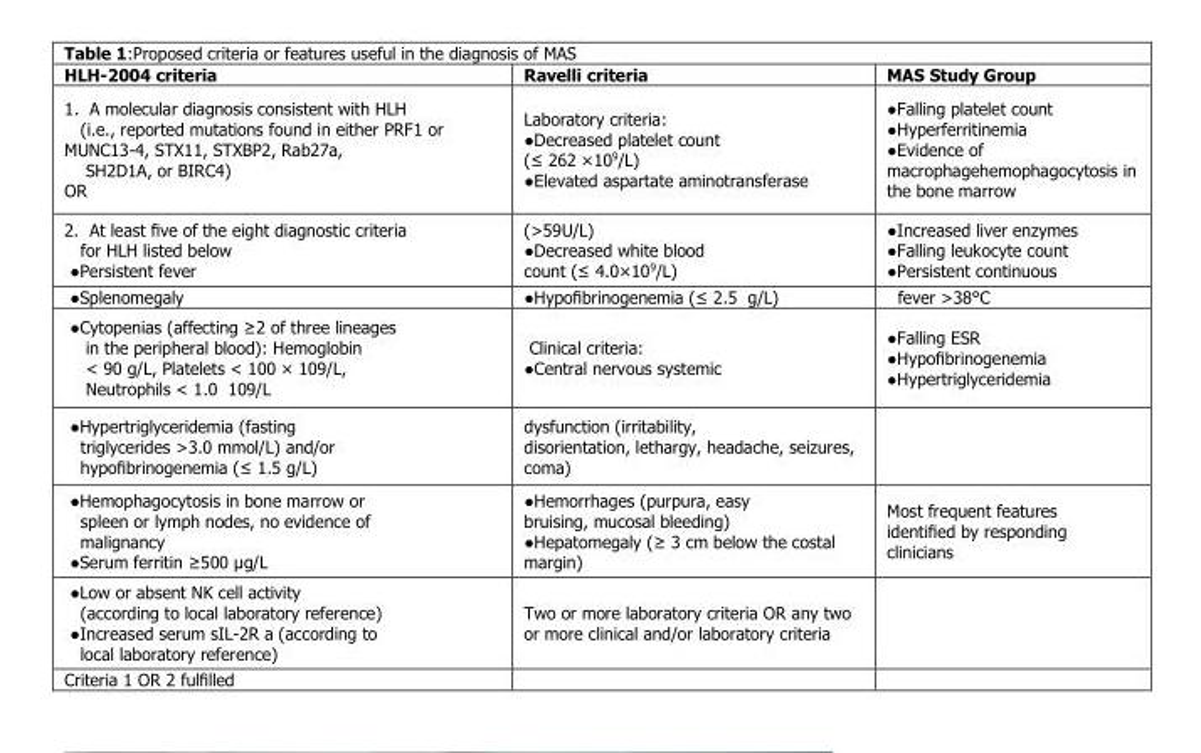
<table><thead><tr><td>HLH-2004 criteria</td><td>Ravelli criteria</td><td>MAS Study Group</td></tr></thead><tbody><tr><td>1. A molecular diagnosis consistent with HLH (i.e., reported mutations found in either PRF1 or MUNC13-4, STX11, STXBP2, Rab27a, SH2D1A, or BIRC4) OR</td><td>Laboratory criteria: ●Decreased platelet count (≤ 262 ×109/L) ●Elevated aspartate aminotransferase</td><td>●Falling platelet count ●Hyperferritinemia ●Evidence of macrophagehemophagocytosis in the bone marrow</td></tr><tr><td>2. At least five of the eight diagnostic criteria for HLH listed below ●Persistent fever</td><td>(&gt;59U/L) ●Decreased white blood count (≤ 4.0×109/L)</td><td>●Increased liver enzymes ●Falling leukocyte count ●Persistent continuous</td></tr><tr><td>●Splenomegaly</td><td>●Hypofibrinogenemia (≤ 2.5 g/L)</td><td>fever &gt;38°C</td></tr><tr><td>●Cytopenias (affecting ≥2 of three lineages in the peripheral blood): Hemoglobin &lt; 90 g/L, Platelets &lt; 100 × 109/L, Neutrophils &lt; 1.0 109/L</td><td>Clinical criteria: ●Central nervous systemic</td><td>●Falling ESR ●Hypofibrinogenemia ●Hypertriglyceridemia</td></tr><tr><td>●Hypertriglyceridemia (fasting triglycerides &gt;3.0 mmol/L) and/or hypofibrinogenemia (≤ 1.5 g/L)</td><td>dysfunction (irritability, disorientation, lethargy, headache, seizures, coma)</td><td></td></tr><tr><td>●Hemophagocytosis in bone marrow or spleen or lymph nodes, no evidence of malignancy ●Serum ferritin ≥500 µg/L</td><td>●Hemorrhages (purpura, easy bruising, mucosal bleeding) ●Hepatomegaly (≥ 3 cm below the costal margin)</td><td>Most frequent features identified by responding clinicians</td></tr><tr><td>●Low or absent NK cell activity (according to local laboratory reference) ●Increased serum sIL-2R a (according to local laboratory reference)</td><td>Two or more laboratory criteria OR any two or more clinical and/or laboratory criteria</td><td></td></tr><tr><td>Criteria 1 OR 2 fulfilled</td><td></td><td></td></tr></tbody></table>